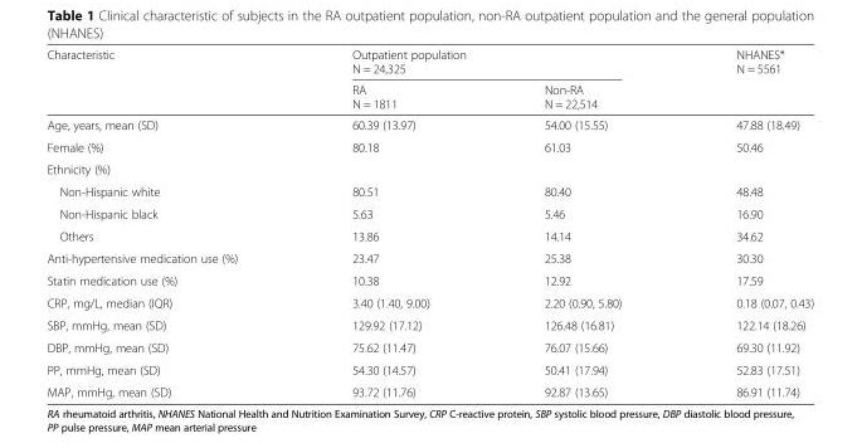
<table><thead><tr><td rowspan="2">Characteristic</td><td colspan="2">Outpatient population N = 24,325</td><td rowspan="2">NHANES* N = 5561</td></tr><tr><td>RA N = 1811</td><td>Non-RA N = 22,514</td></tr></thead><tbody><tr><td>Age, years, mean (SD)</td><td>60.39 (13.97)</td><td>54.00 (15.55)</td><td>47.88 (18.49)</td></tr><tr><td>Female (%)</td><td>80.18</td><td>61.03</td><td>50.46</td></tr><tr><td colspan="4">Ethnicity (%)</td></tr><tr><td>Non-Hispanic white</td><td>80.51</td><td>80.40</td><td>48.48</td></tr><tr><td>Non-Hispanic black</td><td>5.63</td><td>5.46</td><td>16.90</td></tr><tr><td>Others</td><td>13.86</td><td>14.14</td><td>34.62</td></tr><tr><td>Anti-hypertensive medication use (%)</td><td>23.47</td><td>25.38</td><td>30.30</td></tr><tr><td>Statin medication use (%)</td><td>10.38</td><td>12.92</td><td>17.59</td></tr><tr><td>CRP, mg/L, median (IQR)</td><td>3.40 (1.40, 9.00)</td><td>2.20 (0.90, 5.80)</td><td>0.18 (0.07, 0.43)</td></tr><tr><td>SBP, mmHg, mean (SD)</td><td>129.92 (17.12)</td><td>126.48 (16.81)</td><td>122.14 (18.26)</td></tr><tr><td>DBP, mmHg, mean (SD)</td><td>75.62 (11.47)</td><td>76.07 (15.66)</td><td>69.30 (11.92)</td></tr><tr><td>PP, mmHg, mean (SD)</td><td>54.30 (14.57)</td><td>50.41 (17.94)</td><td>52.83 (17.51)</td></tr><tr><td>MAP, mmHg, mean (SD)</td><td>93.72 (11.76)</td><td>92.87 (13.65)</td><td>86.91 (11.74)</td></tr></tbody></table>